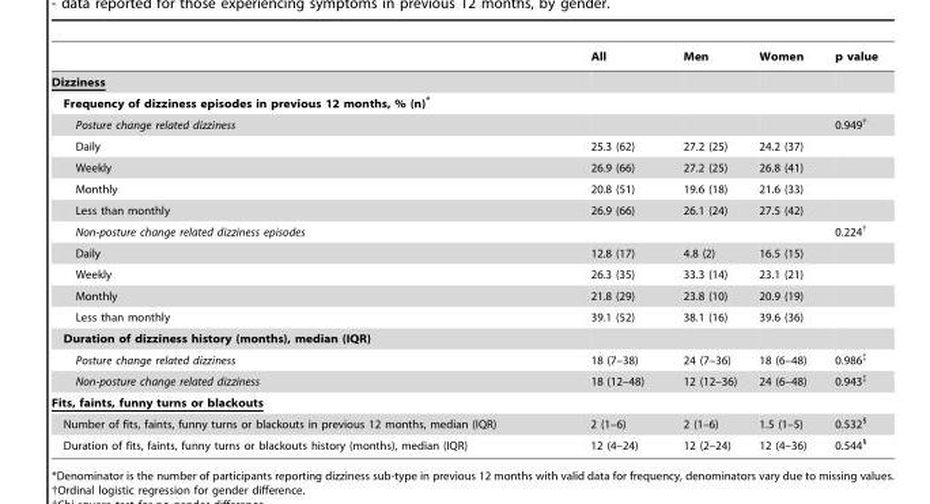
<table><thead><tr><td></td><td>All</td><td>Men</td><td>Women</td><td>p value</td></tr></thead><tbody><tr><td colspan="5">Dizziness</td></tr><tr><td colspan="5">Frequency of dizziness episodes in previous 12 months, % (n)*</td></tr><tr><td>Posture change related dizziness</td><td></td><td></td><td></td><td>0.949†</td></tr><tr><td>Daily</td><td>25.3 (62)</td><td>27.2 (25)</td><td>24.2 (37)</td><td></td></tr><tr><td>Weekly</td><td>26.9 (66)</td><td>27.2 (25)</td><td>26.8 (41)</td><td></td></tr><tr><td>Monthly</td><td>20.8 (51)</td><td>19.6 (18)</td><td>21.6 (33)</td><td></td></tr><tr><td>Less than monthly</td><td>26.9 (66)</td><td>26.1 (24)</td><td>27.5 (42)</td><td></td></tr><tr><td>Non-posture change related dizziness episodes</td><td></td><td></td><td></td><td>0.224†</td></tr><tr><td>Daily</td><td>12.8 (17)</td><td>4.8 (2)</td><td>16.5 (15)</td><td></td></tr><tr><td>Weekly</td><td>26.3 (35)</td><td>33.3 (14)</td><td>23.1 (21)</td><td></td></tr><tr><td>Monthly</td><td>21.8 (29)</td><td>23.8 (10)</td><td>20.9 (19)</td><td></td></tr><tr><td>Less than monthly</td><td>39.1 (52)</td><td>38.1 (16)</td><td>39.6 (36)</td><td></td></tr><tr><td colspan="5">Duration of dizziness history (months), median (IQR)</td></tr><tr><td>Posture change related dizziness</td><td>18 (7–38)</td><td>24 (7–36)</td><td>18 (6–48)</td><td>0.986‡</td></tr><tr><td>Non-posture change related dizziness</td><td>18 (12–48)</td><td>12 (12–36)</td><td>24 (6–48)</td><td>0.943‡</td></tr><tr><td colspan="5">Fits, faints, funny turns or blackouts</td></tr><tr><td>Number of fits, faints, funny turns or blackouts in previous 12 months, median (IQR)</td><td>2 (1–6)</td><td>2 (1–6)</td><td>1.5 (1–5)</td><td>0.532§</td></tr><tr><td>Duration of fits, faints, funny turns or blackouts history (months), median (IQR)</td><td>12 (4–24)</td><td>12 (2–24)</td><td>12 (4–36)</td><td>0.544§</td></tr></tbody></table>